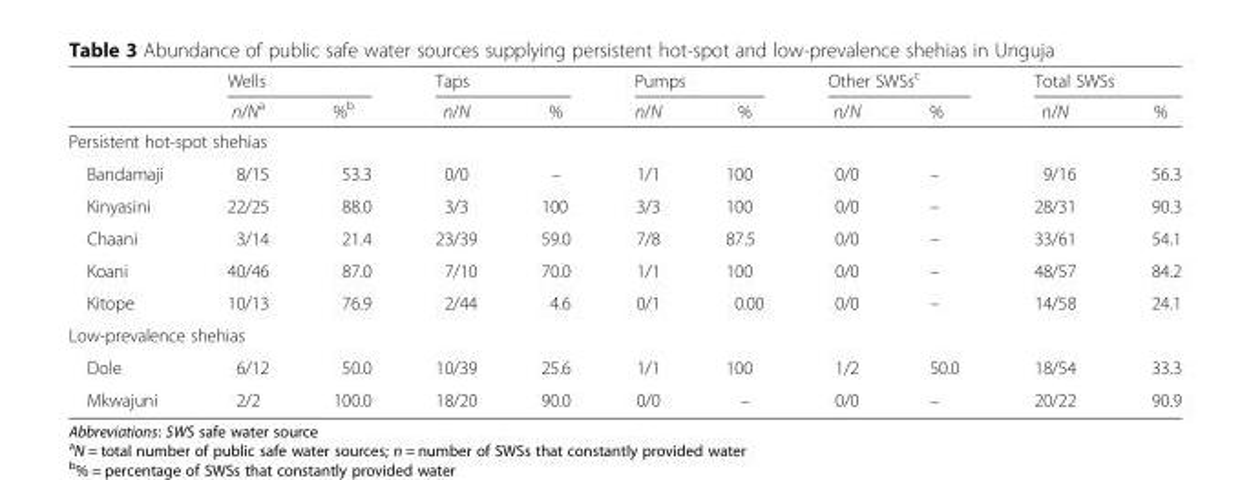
<table><thead><tr><td rowspan="2"></td><td colspan="2">Wells</td><td colspan="2">Taps</td><td colspan="2">Pumps</td><td colspan="2">Other SWSs<sup>c</sup></td><td colspan="2">Total SWSs</td></tr><tr><td>n/N<sup>a</sup></td><td>%<sup>b</sup></td><td>n/N</td><td>%</td><td>n/N</td><td>%</td><td>n/N</td><td>%</td><td>n/N</td><td>%</td></tr></thead><tbody><tr><td colspan="11">Persistent hot-spot shehias</td></tr><tr><td>Bandamaji</td><td>8/15</td><td>53.3</td><td>0/0</td><td>–</td><td>1/1</td><td>100</td><td>0/0</td><td>–</td><td>9/16</td><td>56.3</td></tr><tr><td>Kinyasini</td><td>22/25</td><td>88.0</td><td>3/3</td><td>100</td><td>3/3</td><td>100</td><td>0/0</td><td>–</td><td>28/31</td><td>90.3</td></tr><tr><td>Chaani</td><td>3/14</td><td>21.4</td><td>23/39</td><td>59.0</td><td>7/8</td><td>87.5</td><td>0/0</td><td>–</td><td>33/61</td><td>54.1</td></tr><tr><td>Koani</td><td>40/46</td><td>87.0</td><td>7/10</td><td>70.0</td><td>1/1</td><td>100</td><td>0/0</td><td>–</td><td>48/57</td><td>84.2</td></tr><tr><td>Kitope</td><td>10/13</td><td>76.9</td><td>2/44</td><td>4.6</td><td>0/1</td><td>0.00</td><td>0/0</td><td>–</td><td>14/58</td><td>24.1</td></tr><tr><td colspan="11">Low-prevalence shehias</td></tr><tr><td>Dole</td><td>6/12</td><td>50.0</td><td>10/39</td><td>25.6</td><td>1/1</td><td>100</td><td>1/2</td><td>50.0</td><td>18/54</td><td>33.3</td></tr><tr><td>Mkwajuni</td><td>2/2</td><td>100.0</td><td>18/20</td><td>90.0</td><td>0/0</td><td>–</td><td>0/0</td><td>–</td><td>20/22</td><td>90.9</td></tr></tbody></table>